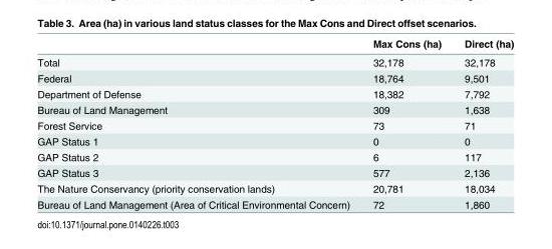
<table><thead><tr><td></td><td>Max Cons (ha)</td><td>Direct (ha)</td></tr></thead><tbody><tr><td>Total</td><td>32,178</td><td>32,178</td></tr><tr><td>Federal</td><td>18,764</td><td>9,501</td></tr><tr><td>Department of Defense</td><td>18,382</td><td>7,792</td></tr><tr><td>Bureau of Land Management</td><td>309</td><td>1,638</td></tr><tr><td>Forest Service</td><td>73</td><td>71</td></tr><tr><td>GAP Status 1</td><td>0</td><td>0</td></tr><tr><td>GAP Status 2</td><td>6</td><td>117</td></tr><tr><td>GAP Status 3</td><td>577</td><td>2,136</td></tr><tr><td>The Nature Conservancy (priority conservation lands)</td><td>20,781</td><td>18,034</td></tr><tr><td>Bureau of Land Management (Area of Critical Environmental Concern)</td><td>72</td><td>1,860</td></tr></tbody></table>